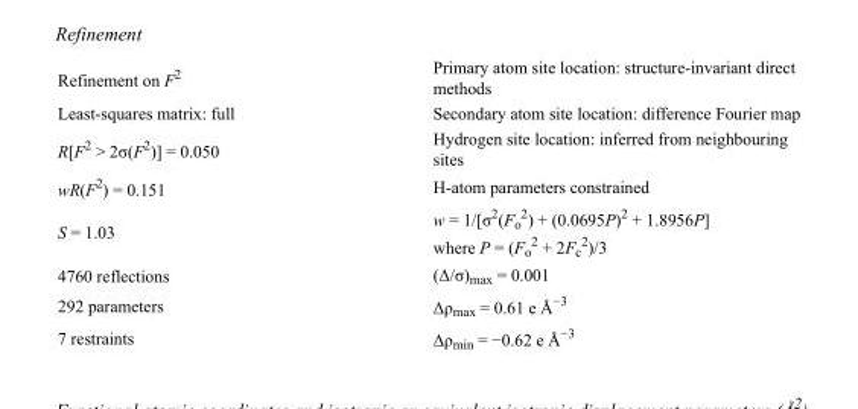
<table><tbody><tr><td>Refinement on F<sup>2</sup></td><td>Primary atom site location: structure-invariant direct methods</td></tr><tr><td>Least-squares matrix: full</td><td>Secondary atom site location: difference Fourier map</td></tr><tr><td>R[F<sup>2</sup> &gt; 2σ(F<sup>2</sup>)] = 0.050</td><td>Hydrogen site location: inferred from neighbouring sites</td></tr><tr><td>wR(F<sup>2</sup>) = 0.151</td><td>H-atom parameters constrained</td></tr><tr><td>S = 1.03</td><td>w = 1/[σ<sup>2</sup>(F<sub>o</sub> <sup>2</sup>) + (0.0695P)<sup>2</sup> + 1.8956P] where P = (F<sub>o</sub> <sup>2</sup> + 2F<sub>c</sub> <sup>2</sup>)/3</td></tr><tr><td>4760 reflections</td><td>(Δ/σ)<sub>max</sub> = 0.001</td></tr><tr><td>292 parameters</td><td>Δρ<sub>max</sub> = 0.61 e Å<sup>−3</sup></td></tr><tr><td>7 restraints</td><td>Δρ<sub>min</sub> = −0.62 e Å<sup>−3</sup></td></tr></tbody></table>